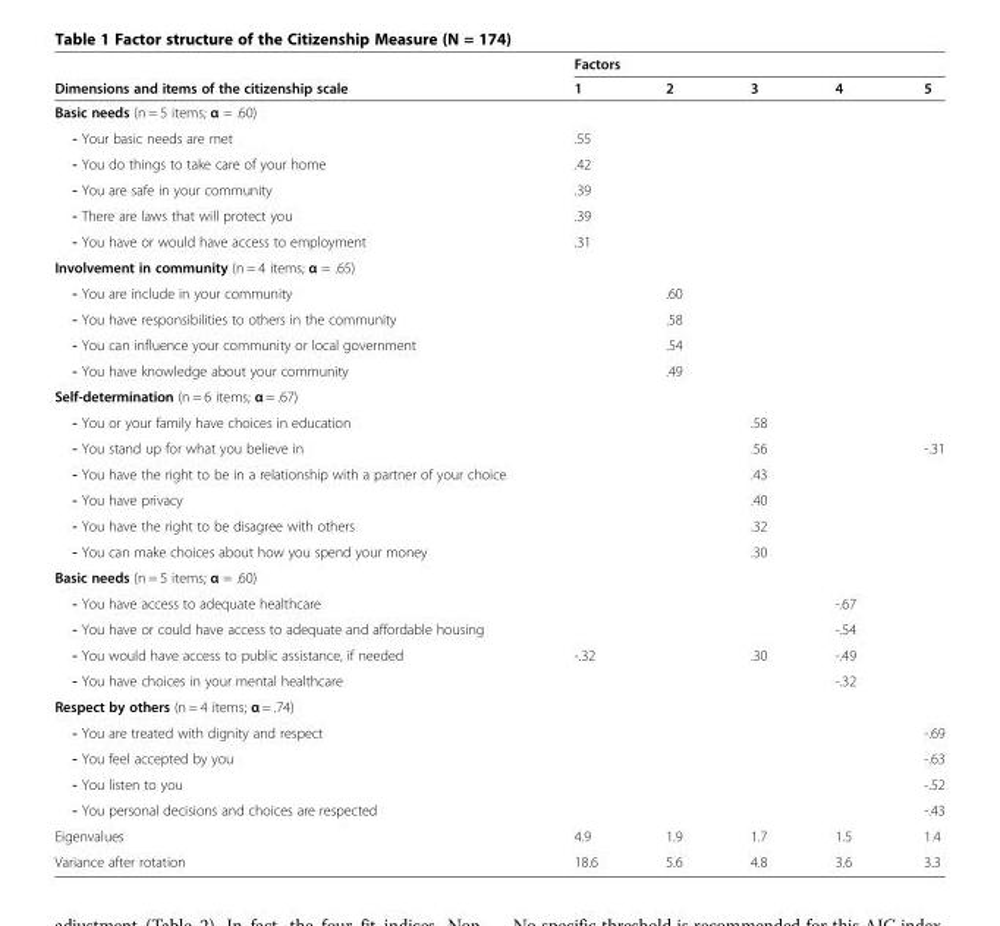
<table><thead><tr><td rowspan="2">Dimensions and items of the citizenship scale</td><td colspan="5">Factors</td></tr><tr><td>1</td><td>2</td><td>3</td><td>4</td><td>5</td></tr></thead><tbody><tr><td colspan="6">Basic needs (n = 5 items; α = .60)</td></tr><tr><td>- Your basic needs are met</td><td>.55</td><td></td><td></td><td></td><td></td></tr><tr><td>- You do things to take care of your home</td><td>.42</td><td></td><td></td><td></td><td></td></tr><tr><td>- You are safe in your community</td><td>.39</td><td></td><td></td><td></td><td></td></tr><tr><td>- There are laws that will protect you</td><td>.39</td><td></td><td></td><td></td><td></td></tr><tr><td>- You have or would have access to employment</td><td>.31</td><td></td><td></td><td></td><td></td></tr><tr><td colspan="6">Involvement in community (n = 4 items; α = .65)</td></tr><tr><td>- You are include in your community</td><td></td><td>.60</td><td></td><td></td><td></td></tr><tr><td>- You have responsibilities to others in the community</td><td></td><td>.58</td><td></td><td></td><td></td></tr><tr><td>- You can influence your community or local government</td><td></td><td>.54</td><td></td><td></td><td></td></tr><tr><td>- You have knowledge about your community</td><td></td><td>.49</td><td></td><td></td><td></td></tr><tr><td colspan="6">Self-determination (n = 6 items; α = .67)</td></tr><tr><td>- You or your family have choices in education</td><td></td><td></td><td>.58</td><td></td><td></td></tr><tr><td>- You stand up for what you believe in</td><td></td><td></td><td>.56</td><td></td><td>-.31</td></tr><tr><td>- You have the right to be in a relationship with a partner of your choice</td><td></td><td></td><td>.43</td><td></td><td></td></tr><tr><td>- You have privacy</td><td></td><td></td><td>.40</td><td></td><td></td></tr><tr><td>- You have the right to be disagree with others</td><td></td><td></td><td>.32</td><td></td><td></td></tr><tr><td>- You can make choices about how you spend your money</td><td></td><td></td><td>.30</td><td></td><td></td></tr><tr><td colspan="6">Basic needs (n = 5 items; α = .60)</td></tr><tr><td>- You have access to adequate healthcare</td><td></td><td></td><td></td><td>-.67</td><td></td></tr><tr><td>- You have or could have access to adequate and affordable housing</td><td></td><td></td><td></td><td>-.54</td><td></td></tr><tr><td>- You would have access to public assistance, if needed</td><td>-.32</td><td></td><td>.30</td><td>-.49</td><td></td></tr><tr><td>- You have choices in your mental healthcare</td><td></td><td></td><td></td><td>-.32</td><td></td></tr><tr><td colspan="6">Respect by others (n = 4 items; α = .74)</td></tr><tr><td>- You are treated with dignity and respect</td><td></td><td></td><td></td><td></td><td>-.69</td></tr><tr><td>- You feel accepted by you</td><td></td><td></td><td></td><td></td><td>-.63</td></tr><tr><td>- You listen to you</td><td></td><td></td><td></td><td></td><td>-.52</td></tr><tr><td>- You personal decisions and choices are respected</td><td></td><td></td><td></td><td></td><td>-.43</td></tr><tr><td>Eigenvalues</td><td>4.9</td><td>1.9</td><td>1.7</td><td>1.5</td><td>1.4</td></tr><tr><td>Variance after rotation</td><td>18.6</td><td>5.6</td><td>4.8</td><td>3.6</td><td>3.3</td></tr></tbody></table>